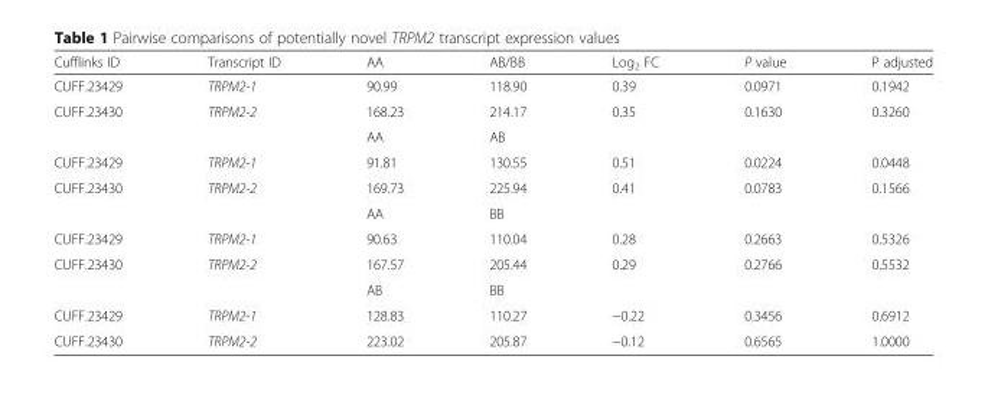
<table><thead><tr><td>Cufflinks ID</td><td>Transcript ID</td><td>AA</td><td>AB/BB</td><td>Log<sub>2</sub> FC</td><td>P value</td><td>P adjusted</td></tr></thead><tbody><tr><td>CUFF.23429</td><td>TRPM2-1</td><td>90.99</td><td>118.90</td><td>0.39</td><td>0.0971</td><td>0.1942</td></tr><tr><td rowspan="2">CUFF.23430</td><td>TRPM2-2</td><td>168.23</td><td>214.17</td><td>0.35</td><td>0.1630</td><td>0.3260</td></tr><tr><td></td><td>AA</td><td>AB</td><td></td><td></td><td></td></tr><tr><td>CUFF.23429</td><td>TRPM2-1</td><td>91.81</td><td>130.55</td><td>0.51</td><td>0.0224</td><td>0.0448</td></tr><tr><td rowspan="2">CUFF.23430</td><td>TRPM2-2</td><td>169.73</td><td>225.94</td><td>0.41</td><td>0.0783</td><td>0.1566</td></tr><tr><td></td><td>AA</td><td>BB</td><td></td><td></td><td></td></tr><tr><td>CUFF.23429</td><td>TRPM2-1</td><td>90.63</td><td>110.04</td><td>0.28</td><td>0.2663</td><td>0.5326</td></tr><tr><td rowspan="2">CUFF.23430</td><td>TRPM2-2</td><td>167.57</td><td>205.44</td><td>0.29</td><td>0.2766</td><td>0.5532</td></tr><tr><td></td><td>AB</td><td>BB</td><td></td><td></td><td></td></tr><tr><td>CUFF.23429</td><td>TRPM2-1</td><td>128.83</td><td>110.27</td><td>−0.22</td><td>0.3456</td><td>0.6912</td></tr><tr><td>CUFF.23430</td><td>TRPM2-2</td><td>223.02</td><td>205.87</td><td>−0.12</td><td>0.6565</td><td>1.0000</td></tr></tbody></table>